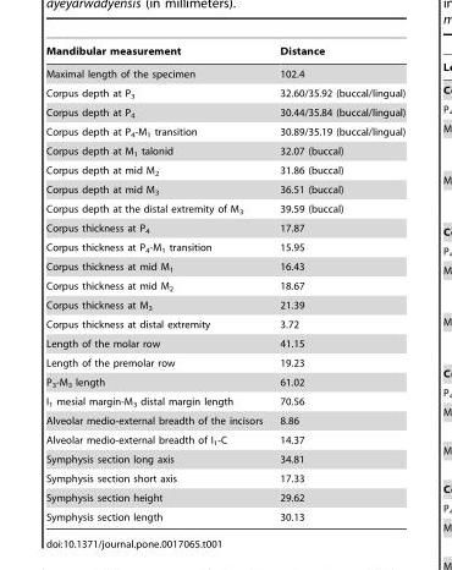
<table><thead><tr><td>Mandibular measurement</td><td>Distance</td></tr></thead><tbody><tr><td>Maximal length of the specimen</td><td>102.4</td></tr><tr><td>Corpus depth at P<sub>3</sub></td><td>32.60/35.92 (buccal/lingual)</td></tr><tr><td>Corpus depth at P<sub>4</sub></td><td>30.44/35.84 (buccal/lingual)</td></tr><tr><td>Corpus depth at P<sub>4</sub>-M<sub>1</sub> transition</td><td>30.89/35.19 (buccal/lingual)</td></tr><tr><td>Corpus depth at M<sub>1</sub> talonid</td><td>32.07 (buccal)</td></tr><tr><td>Corpus depth at mid M<sub>2</sub></td><td>31.86 (buccal)</td></tr><tr><td>Corpus depth at mid M<sub>3</sub></td><td>36.51 (buccal)</td></tr><tr><td>Corpus depth at the distal extremity of M<sub>3</sub></td><td>39.59 (buccal)</td></tr><tr><td>Corpus thickness at P<sub>4</sub></td><td>17.87</td></tr><tr><td>Corpus thickness at P<sub>4</sub>-M<sub>1</sub> transition</td><td>15.95</td></tr><tr><td>Corpus thickness at mid M<sub>1</sub></td><td>16.43</td></tr><tr><td>Corpus thickness at mid M<sub>2</sub></td><td>18.67</td></tr><tr><td>Corpus thickness at M<sub>3</sub></td><td>21.39</td></tr><tr><td>Corpus thickness at distal extremity</td><td>3.72</td></tr><tr><td>Length of the molar row</td><td>41.15</td></tr><tr><td>Length of the premolar row</td><td>19.23</td></tr><tr><td>P<sub>3</sub>-M<sub>3</sub> length</td><td>61.02</td></tr><tr><td>I<sub>1</sub> mesial margin-M<sub>3</sub> distal margin length</td><td>70.56</td></tr><tr><td>Alveolar medio-external breadth of the incisors</td><td>8.86</td></tr><tr><td>Alveolar medio-external breadth of I<sub>1</sub>-C</td><td>14.37</td></tr><tr><td>Symphysis section long axis</td><td>34.81</td></tr><tr><td>Symphysis section short axis</td><td>17.33</td></tr><tr><td>Symphysis section height</td><td>29.62</td></tr><tr><td>Symphysis section length</td><td>30.13</td></tr></tbody></table>